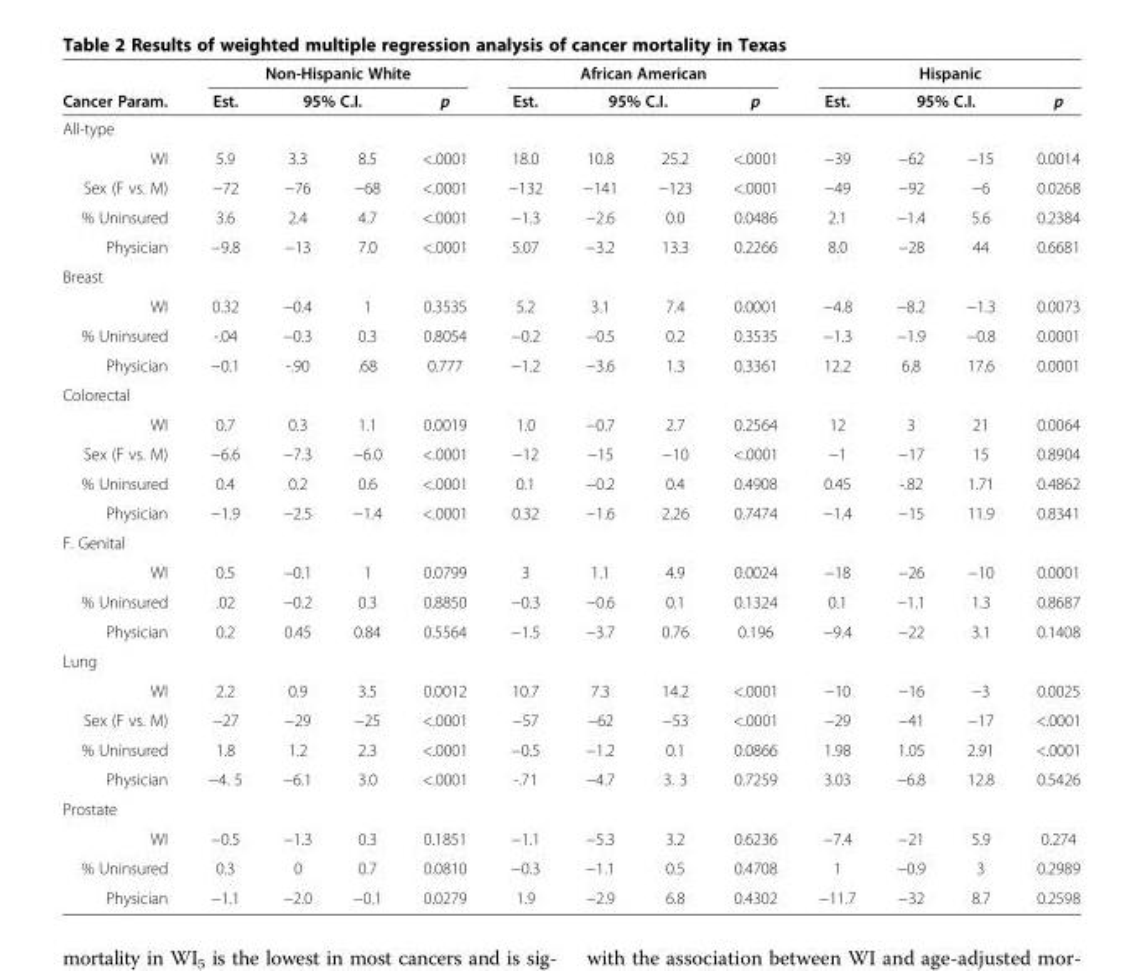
<table><thead><tr><td rowspan="3">Cancer Param. All-type</td><td colspan="4">Non-Hispanic White</td><td colspan="4">African American</td><td colspan="4">Hispanic</td></tr><tr><td rowspan="2">Est.</td><td colspan="2">95% C.I.</td><td rowspan="2">p</td><td rowspan="2">Est.</td><td colspan="2">95% C.I.</td><td rowspan="2">p</td><td rowspan="2">Est.</td><td colspan="2">95% C.I.</td><td rowspan="2">p</td></tr><tr><td></td><td></td><td></td><td></td><td></td><td></td></tr></thead><tbody><tr><td>WI</td><td>5.9</td><td>3.3</td><td>8.5</td><td>&lt;.0001</td><td>18.0</td><td>10.8</td><td>25.2</td><td>&lt;.0001</td><td>−39</td><td>−62</td><td>−15</td><td>0.0014</td></tr><tr><td>Sex (F vs. M)</td><td>−72</td><td>−76</td><td>−68</td><td>&lt;.0001</td><td>−132</td><td>−141</td><td>−123</td><td>&lt;.0001</td><td>−49</td><td>−92</td><td>−6</td><td>0.0268</td></tr><tr><td>% Uninsured</td><td>3.6</td><td>2.4</td><td>4.7</td><td>&lt;.0001</td><td>−1.3</td><td>−2.6</td><td>0.0</td><td>0.0486</td><td>2.1</td><td>−1.4</td><td>5.6</td><td>0.2384</td></tr><tr><td>Physician</td><td>−9.8</td><td>−13</td><td>7.0</td><td>&lt;.0001</td><td>5.07</td><td>−3.2</td><td>13.3</td><td>0.2266</td><td>8.0</td><td>−28</td><td>44</td><td>0.6681</td></tr><tr><td colspan="13">Breast</td></tr><tr><td>WI</td><td>0.32</td><td>−0.4</td><td>1</td><td>0.3535</td><td>5.2</td><td>3.1</td><td>7.4</td><td>0.0001</td><td>−4.8</td><td>−8.2</td><td>−1.3</td><td>0.0073</td></tr><tr><td>% Uninsured</td><td>-.04</td><td>−0.3</td><td>0.3</td><td>0.8054</td><td>−0.2</td><td>−0.5</td><td>0.2</td><td>0.3535</td><td>−1.3</td><td>−1.9</td><td>−0.8</td><td>0.0001</td></tr><tr><td>Physician</td><td>−0.1</td><td>-.90</td><td>.68</td><td>0.777</td><td>−1.2</td><td>−3.6</td><td>1.3</td><td>0.3361</td><td>12.2</td><td>6.8</td><td>17.6</td><td>0.0001</td></tr><tr><td colspan="13">Colorectal</td></tr><tr><td>WI</td><td>0.7</td><td>0.3</td><td>1.1</td><td>0.0019</td><td>1.0</td><td>−0.7</td><td>2.7</td><td>0.2564</td><td>12</td><td>3</td><td>21</td><td>0.0064</td></tr><tr><td>Sex (F vs. M)</td><td>−6.6</td><td>−7.3</td><td>−6.0</td><td>&lt;.0001</td><td>−12</td><td>−15</td><td>−10</td><td>&lt;.0001</td><td>−1</td><td>−17</td><td>15</td><td>0.8904</td></tr><tr><td>% Uninsured</td><td>0.4</td><td>0.2</td><td>0.6</td><td>&lt;.0001</td><td>0.1</td><td>−0.2</td><td>0.4</td><td>0.4908</td><td>0.45</td><td>-.82</td><td>1.71</td><td>0.4862</td></tr><tr><td>Physician</td><td>−1.9</td><td>−2.5</td><td>−1.4</td><td>&lt;.0001</td><td>0.32</td><td>−1.6</td><td>2.26</td><td>0.7474</td><td>−1.4</td><td>−15</td><td>11.9</td><td>0.8341</td></tr><tr><td colspan="13">F. Genital</td></tr><tr><td>WI</td><td>0.5</td><td>−0.1</td><td>1</td><td>0.0799</td><td>3</td><td>1.1</td><td>4.9</td><td>0.0024</td><td>−18</td><td>−26</td><td>−10</td><td>0.0001</td></tr><tr><td>% Uninsured</td><td>.02</td><td>−0.2</td><td>0.3</td><td>0.8850</td><td>−0.3</td><td>−0.6</td><td>0.1</td><td>0.1324</td><td>0.1</td><td>−1.1</td><td>1.3</td><td>0.8687</td></tr><tr><td>Physician</td><td>0.2</td><td>0.45</td><td>0.84</td><td>0.5564</td><td>−1.5</td><td>−3.7</td><td>0.76</td><td>0.196</td><td>−9.4</td><td>−22</td><td>3.1</td><td>0.1408</td></tr><tr><td colspan="13">Lung</td></tr><tr><td>WI</td><td>2.2</td><td>0.9</td><td>3.5</td><td>0.0012</td><td>10.7</td><td>7.3</td><td>14.2</td><td>&lt;.0001</td><td>−10</td><td>−16</td><td>−3</td><td>0.0025</td></tr><tr><td>Sex (F vs. M)</td><td>−27</td><td>−29</td><td>−25</td><td>&lt;.0001</td><td>−57</td><td>−62</td><td>−53</td><td>&lt;.0001</td><td>−29</td><td>−41</td><td>−17</td><td>&lt;.0001</td></tr><tr><td>% Uninsured</td><td>1.8</td><td>1.2</td><td>2.3</td><td>&lt;.0001</td><td>−0.5</td><td>−1.2</td><td>0.1</td><td>0.0866</td><td>1.98</td><td>1.05</td><td>2.91</td><td>&lt;.0001</td></tr><tr><td>Physician</td><td>−4. 5</td><td>−6.1</td><td>3.0</td><td>&lt;.0001</td><td>-.71</td><td>−4.7</td><td>3. 3</td><td>0.7259</td><td>3.03</td><td>−6.8</td><td>12.8</td><td>0.5426</td></tr><tr><td colspan="13">Prostate</td></tr><tr><td>WI</td><td>−0.5</td><td>−1.3</td><td>0.3</td><td>0.1851</td><td>−1.1</td><td>−5.3</td><td>3.2</td><td>0.6236</td><td>−7.4</td><td>−21</td><td>5.9</td><td>0.274</td></tr><tr><td>% Uninsured</td><td>0.3</td><td>0</td><td>0.7</td><td>0.0810</td><td>−0.3</td><td>−1.1</td><td>0.5</td><td>0.4708</td><td>1</td><td>−0.9</td><td>3</td><td>0.2989</td></tr><tr><td>Physician</td><td>−1.1</td><td>−2.0</td><td>−0.1</td><td>0.0279</td><td>1.9</td><td>−2.9</td><td>6.8</td><td>0.4302</td><td>−11.7</td><td>−32</td><td>8.7</td><td>0.2598</td></tr></tbody></table>